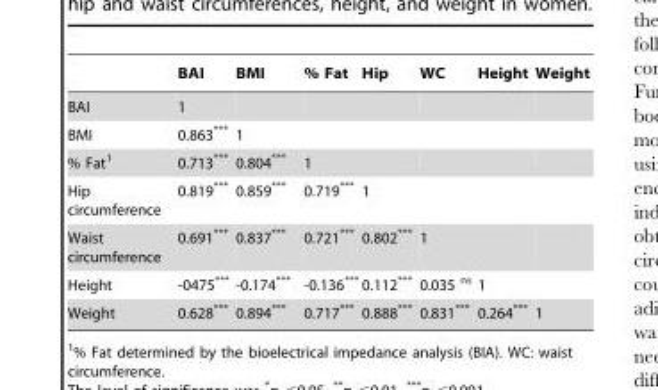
<table><thead><tr><td></td><td>BAI</td><td>BMI</td><td>% Fat</td><td>Hip</td><td>WC</td><td>Height</td><td>Weight</td></tr></thead><tbody><tr><td>BAI</td><td>1</td><td></td><td></td><td></td><td></td><td></td><td></td></tr><tr><td>BMI</td><td>0.863***</td><td>1</td><td></td><td></td><td></td><td></td><td></td></tr><tr><td>% Fat<sup>1</sup></td><td>0.713***</td><td>0.804***</td><td>1</td><td></td><td></td><td></td><td></td></tr><tr><td>Hip circumference</td><td>0.819***</td><td>0.859***</td><td>0.719***</td><td>1</td><td></td><td></td><td></td></tr><tr><td>Waist circumference</td><td>0.691***</td><td>0.837***</td><td>0.721***</td><td>0.802***</td><td>1</td><td></td><td></td></tr><tr><td>Height</td><td>-0475***</td><td>-0.174***</td><td>-0.136***</td><td>0.112***</td><td>0.035 <sup>ns</sup></td><td>1</td><td></td></tr><tr><td>Weight</td><td>0.628***</td><td>0.894***</td><td>0.717***</td><td>0.888***</td><td>0.831***</td><td>0.264***</td><td>1</td></tr></tbody></table>